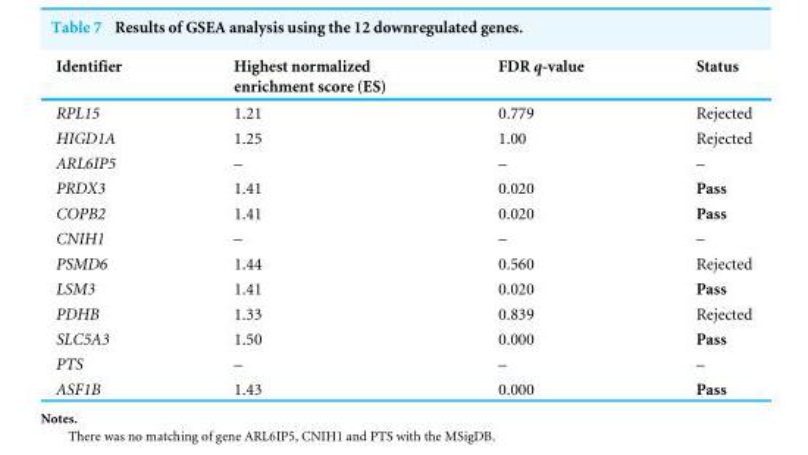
<table><thead><tr><td>Identifier</td><td>Highest normalized enrichment score (ES)</td><td>FDR q-value</td><td>Status</td></tr></thead><tbody><tr><td>RPL15</td><td>1.21</td><td>0.779</td><td>Rejected</td></tr><tr><td>HIGD1A</td><td>1.25</td><td>1.00</td><td>Rejected</td></tr><tr><td>ARL6IP5</td><td>–</td><td>–</td><td>–</td></tr><tr><td>PRDX3</td><td>1.41</td><td>0.020</td><td>Pass</td></tr><tr><td>COPB2</td><td>1.41</td><td>0.020</td><td>Pass</td></tr><tr><td>CNIH1</td><td>–</td><td>–</td><td>–</td></tr><tr><td>PSMD6</td><td>1.44</td><td>0.560</td><td>Rejected</td></tr><tr><td>LSM3</td><td>1.41</td><td>0.020</td><td>Pass</td></tr><tr><td>PDHB</td><td>1.33</td><td>0.839</td><td>Rejected</td></tr><tr><td>SLC5A3</td><td>1.50</td><td>0.000</td><td>Pass</td></tr><tr><td>PTS</td><td>–</td><td>–</td><td>–</td></tr><tr><td>ASF1B</td><td>1.43</td><td>0.000</td><td>Pass</td></tr></tbody></table>